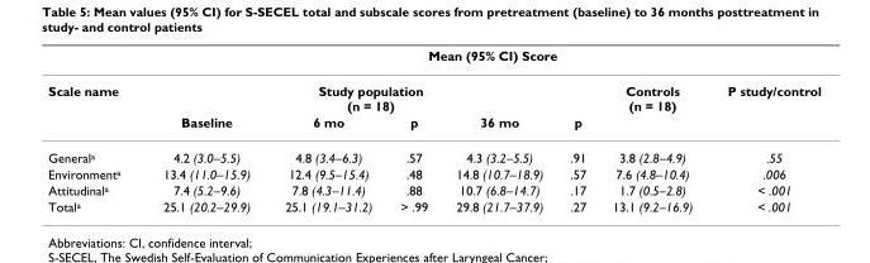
<table><thead><tr><td rowspan="3">Scale name</td><td colspan="7">Mean (95% CI) Score</td></tr><tr><td colspan="5">Study population (n = 18)</td><td rowspan="2">Controls (n = 18)</td><td rowspan="2">P study/control</td></tr><tr><td>Baseline</td><td>6 mo</td><td>p</td><td>36 mo</td><td>p</td></tr></thead><tbody><tr><td>General<sup>a</sup></td><td>4.2 (3.0–5.5)</td><td>4.8 (3.4–6.3)</td><td>.57</td><td>4.3 (3.2–5.5)</td><td>.91</td><td>3.8 (2.8–4.9)</td><td>.55</td></tr><tr><td>Environment<sup>a</sup></td><td>13.4 (11.0–15.9)</td><td>12.4 (9.5–15.4)</td><td>.48</td><td>14.8 (10.7–18.9)</td><td>.57</td><td>7.6 (4.8–10.4)</td><td>.006</td></tr><tr><td>Attitudinal<sup>a</sup></td><td>7.4 (5.2–9.6)</td><td>7.8 (4.3–11.4)</td><td>.88</td><td>10.7 (6.8–14.7)</td><td>.17</td><td>1.7 (0.5–2.8)</td><td>&lt; .001</td></tr><tr><td>Total<sup>a</sup></td><td>25.1 (20.2–29.9)</td><td>25.1 (19.1–31.2)</td><td>&gt; .99</td><td>29.8 (21.7–37.9)</td><td>.27</td><td>13.1 (9.2–16.9)</td><td>&lt; .001</td></tr></tbody></table>